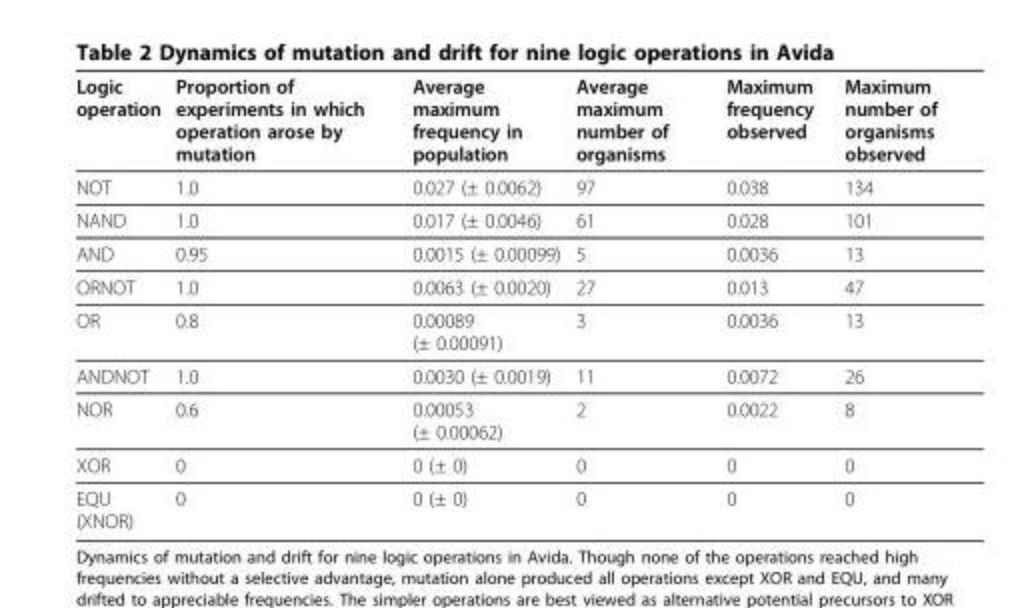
<table><thead><tr><td>Logic operation</td><td>Proportion of experiments in which operation arose by mutation</td><td>Average maximum frequency in population</td><td>Average maximum number of organisms</td><td>Maximum frequency observed</td><td>Maximum number of organisms observed</td></tr></thead><tbody><tr><td>NOT</td><td>1.0</td><td>0.027 (± 0.0062)</td><td>97</td><td>0.038</td><td>134</td></tr><tr><td>NAND</td><td>1.0</td><td>0.017 (± 0.0046)</td><td>61</td><td>0.028</td><td>101</td></tr><tr><td>AND</td><td>0.95</td><td>0.0015 (± 0.00099)</td><td>5</td><td>0.0036</td><td>13</td></tr><tr><td>ORNOT</td><td>1.0</td><td>0.0063 (± 0.0020)</td><td>27</td><td>0.013</td><td>47</td></tr><tr><td>OR</td><td>0.8</td><td>0.00089 (± 0.00091)</td><td>3</td><td>0.0036</td><td>13</td></tr><tr><td>ANDNOT</td><td>1.0</td><td>0.0030 (± 0.0019)</td><td>11</td><td>0.0072</td><td>26</td></tr><tr><td>NOR</td><td>0.6</td><td>0.00053 (± 0.00062)</td><td>2</td><td>0.0022</td><td>8</td></tr><tr><td>XOR</td><td>0</td><td>0 (± 0)</td><td>0</td><td>0</td><td>0</td></tr><tr><td>EQU (XNOR)</td><td>0</td><td>0 (± 0)</td><td>0</td><td>0</td><td>0</td></tr></tbody></table>